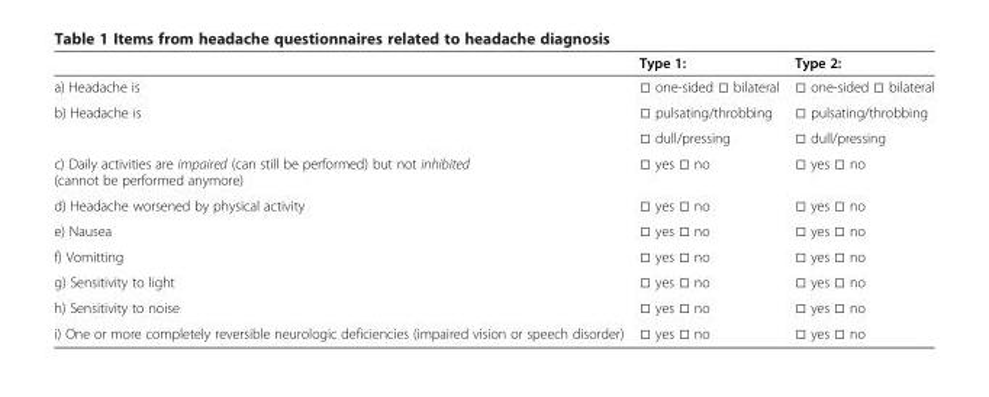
<table><thead><tr><td></td><td>Type 1:</td><td>Type 2:</td></tr></thead><tbody><tr><td>a) Headache is</td><td>□ one-sided □ bilateral</td><td>□ one-sided □ bilateral</td></tr><tr><td rowspan="2">b) Headache is</td><td>□ pulsating/throbbing</td><td>□ pulsating/throbbing</td></tr><tr><td>□ dull/pressing</td><td>□ dull/pressing</td></tr><tr><td>c) Daily activities are impaired (can still be performed) but not inhibited (cannot be performed anymore)</td><td>□ yes □ no</td><td>□ yes □ no</td></tr><tr><td>d) Headache worsened by physical activity</td><td>□ yes □ no</td><td>□ yes □ no</td></tr><tr><td>e) Nausea</td><td>□ yes □ no</td><td>□ yes □ no</td></tr><tr><td>f) Vomitting</td><td>□ yes □ no</td><td>□ yes □ no</td></tr><tr><td>g) Sensitivity to light</td><td>□ yes □ no</td><td>□ yes □ no</td></tr><tr><td>h) Sensitivity to noise</td><td>□ yes □ no</td><td>□ yes □ no</td></tr><tr><td>i) One or more completely reversible neurologic deficiencies (impaired vision or speech disorder)</td><td>□ yes □ no</td><td>□ yes □ no</td></tr></tbody></table>